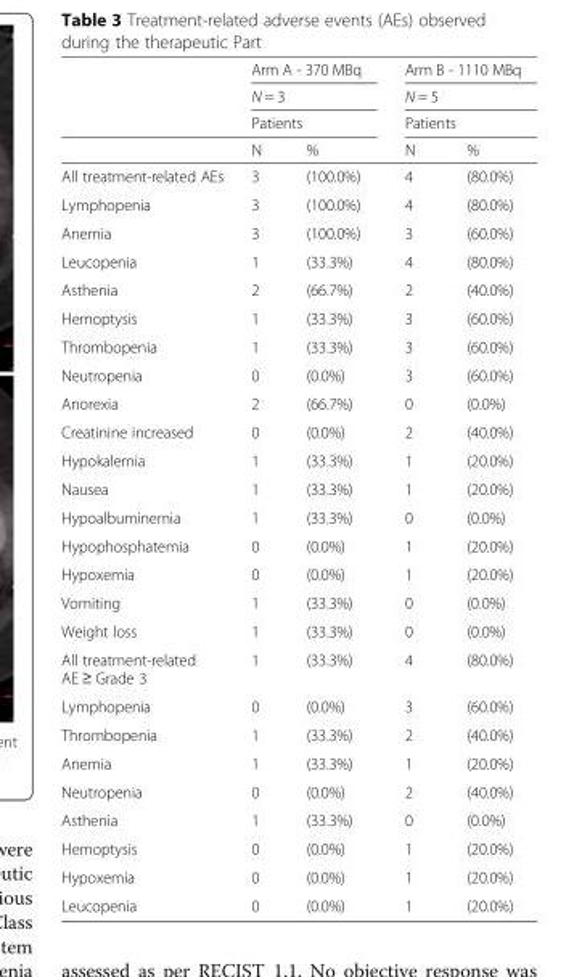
<table><thead><tr><td rowspan="4"></td><td rowspan="3" colspan="2">Arm A - 370 MBq N = 3 Patients</td><td rowspan="3" colspan="2">Arm B - 1110 MBq N = 5 Patients</td></tr><tr></tr><tr></tr><tr><td>N</td><td>%</td><td>N</td><td>%</td></tr></thead><tbody><tr><td>All treatment-related AEs</td><td>3</td><td>(100.0%)</td><td>4</td><td>(80.0%)</td></tr><tr><td>Lymphopenia</td><td>3</td><td>(100.0%)</td><td>4</td><td>(80.0%)</td></tr><tr><td>Anemia</td><td>3</td><td>(100.0%)</td><td>3</td><td>(60.0%)</td></tr><tr><td>Leucopenia</td><td>1</td><td>(33.3%)</td><td>4</td><td>(80.0%)</td></tr><tr><td>Asthenia</td><td>2</td><td>(66.7%)</td><td>2</td><td>(40.0%)</td></tr><tr><td>Hemoptysis</td><td>1</td><td>(33.3%)</td><td>3</td><td>(60.0%)</td></tr><tr><td>Thrombopenia</td><td>1</td><td>(33.3%)</td><td>3</td><td>(60.0%)</td></tr><tr><td>Neutropenia</td><td>0</td><td>(0.0%)</td><td>3</td><td>(60.0%)</td></tr><tr><td>Anorexia</td><td>2</td><td>(66.7%)</td><td>0</td><td>(0.0%)</td></tr><tr><td>Creatinine increased</td><td>0</td><td>(0.0%)</td><td>2</td><td>(40.0%)</td></tr><tr><td>Hypokalemia</td><td>1</td><td>(33.3%)</td><td>1</td><td>(20.0%)</td></tr><tr><td>Nausea</td><td>1</td><td>(33.3%)</td><td>1</td><td>(20.0%)</td></tr><tr><td>Hypoalbuminemia</td><td>1</td><td>(33.3%)</td><td>0</td><td>(0.0%)</td></tr><tr><td>Hypophosphatemia</td><td>0</td><td>(0.0%)</td><td>1</td><td>(20.0%)</td></tr><tr><td>Hypoxemia</td><td>0</td><td>(0.0%)</td><td>1</td><td>(20.0%)</td></tr><tr><td>Vomiting</td><td>1</td><td>(33.3%)</td><td>0</td><td>(0.0%)</td></tr><tr><td>Weight loss</td><td>1</td><td>(33.3%)</td><td>0</td><td>(0.0%)</td></tr><tr><td>All treatment-related AE ≥ Grade 3</td><td>1</td><td>(33.3%)</td><td>4</td><td>(80.0%)</td></tr><tr><td>Lymphopenia</td><td>0</td><td>(0.0%)</td><td>3</td><td>(60.0%)</td></tr><tr><td>Thrombopenia</td><td>1</td><td>(33.3%)</td><td>2</td><td>(40.0%)</td></tr><tr><td>Anemia</td><td>1</td><td>(33.3%)</td><td>1</td><td>(20.0%)</td></tr><tr><td>Neutropenia</td><td>0</td><td>(0.0%)</td><td>2</td><td>(40.0%)</td></tr><tr><td>Asthenia</td><td>1</td><td>(33.3%)</td><td>0</td><td>(0.0%)</td></tr><tr><td>Hemoptysis</td><td>0</td><td>(0.0%)</td><td>1</td><td>(20.0%)</td></tr><tr><td>Hypoxemia</td><td>0</td><td>(0.0%)</td><td>1</td><td>(20.0%)</td></tr><tr><td>Leucopenia</td><td>0</td><td>(0.0%)</td><td>1</td><td>(20.0%)</td></tr></tbody></table>